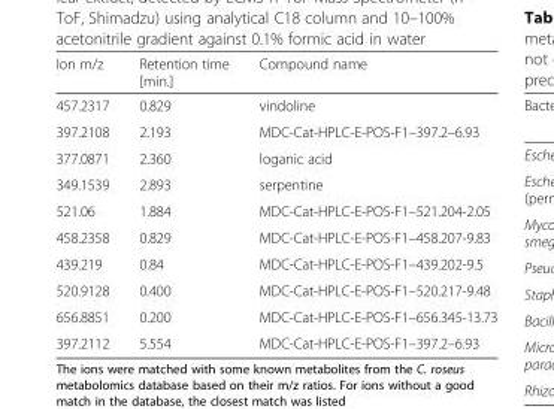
<table><thead><tr><td>Ion m/z</td><td>Retention time [min.]</td><td>Compound name</td></tr></thead><tbody><tr><td>457.2317</td><td>0.829</td><td>vindoline</td></tr><tr><td>397.2108</td><td>2.193</td><td>MDC-Cat-HPLC-E-POS-F1–397.2–6.93</td></tr><tr><td>377.0871</td><td>2.360</td><td>loganic acid</td></tr><tr><td>349.1539</td><td>2.893</td><td>serpentine</td></tr><tr><td>521.06</td><td>1.884</td><td>MDC-Cat-HPLC-E-POS-F1–521.204-2.05</td></tr><tr><td>458.2358</td><td>0.829</td><td>MDC-Cat-HPLC-E-POS-F1–458.207-9.83</td></tr><tr><td>439.219</td><td>0.84</td><td>MDC-Cat-HPLC-E-POS-F1–439.202-9.5</td></tr><tr><td>520.9128</td><td>0.400</td><td>MDC-Cat-HPLC-E-POS-F1–520.217-9.48</td></tr><tr><td>656.8851</td><td>0.200</td><td>MDC-Cat-HPLC-E-POS-F1–656.345-13.73</td></tr><tr><td>397.2112</td><td>5.554</td><td>MDC-Cat-HPLC-E-POS-F1–397.2–6.93</td></tr></tbody></table>